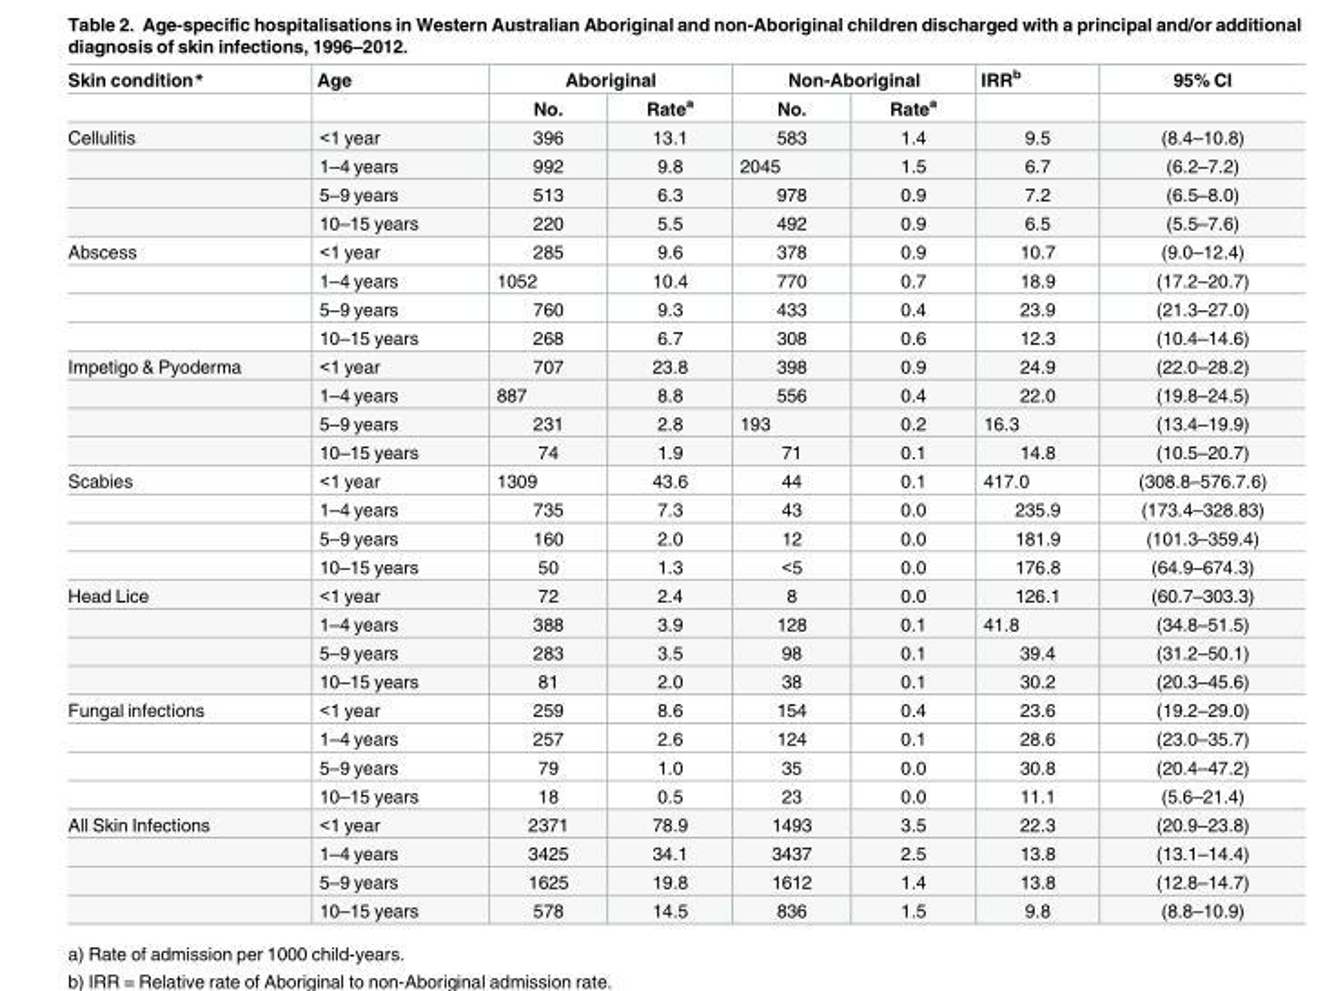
<table><thead><tr><td rowspan="2">Skin condition*</td><td rowspan="2">Age</td><td colspan="2">Aboriginal</td><td colspan="2">Non-Aboriginal</td><td rowspan="2">IRR<sup>b</sup></td><td rowspan="2">95% CI</td></tr><tr><td>No.</td><td>Rate<sup>a</sup></td><td>No.</td><td>Rate<sup>a</sup></td></tr></thead><tbody><tr><td rowspan="4">Cellulitis</td><td>&lt;1 year</td><td>396</td><td>13.1</td><td>583</td><td>1.4</td><td>9.5</td><td>(8.4–10.8)</td></tr><tr><td>1–4 years</td><td>992</td><td>9.8</td><td>2045</td><td>1.5</td><td>6.7</td><td>(6.2–7.2)</td></tr><tr><td>5–9 years</td><td>513</td><td>6.3</td><td>978</td><td>0.9</td><td>7.2</td><td>(6.5–8.0)</td></tr><tr><td>10–15 years</td><td>220</td><td>5.5</td><td>492</td><td>0.9</td><td>6.5</td><td>(5.5–7.6)</td></tr><tr><td rowspan="4">Abscess</td><td>&lt;1 year</td><td>285</td><td>9.6</td><td>378</td><td>0.9</td><td>10.7</td><td>(9.0–12.4)</td></tr><tr><td>1–4 years</td><td>1052</td><td>10.4</td><td>770</td><td>0.7</td><td>18.9</td><td>(17.2–20.7)</td></tr><tr><td>5–9 years</td><td>760</td><td>9.3</td><td>433</td><td>0.4</td><td>23.9</td><td>(21.3–27.0)</td></tr><tr><td>10–15 years</td><td>268</td><td>6.7</td><td>308</td><td>0.6</td><td>12.3</td><td>(10.4–14.6)</td></tr><tr><td rowspan="4">Impetigo &amp; Pyoderma</td><td>&lt;1 year</td><td>707</td><td>23.8</td><td>398</td><td>0.9</td><td>24.9</td><td>(22.0–28.2)</td></tr><tr><td>1–4 years</td><td>887</td><td>8.8</td><td>556</td><td>0.4</td><td>22.0</td><td>(19.8–24.5)</td></tr><tr><td>5–9 years</td><td>231</td><td>2.8</td><td>193</td><td>0.2</td><td>16.3</td><td>(13.4–19.9)</td></tr><tr><td>10–15 years</td><td>74</td><td>1.9</td><td>71</td><td>0.1</td><td>14.8</td><td>(10.5–20.7)</td></tr><tr><td rowspan="4">Scabies</td><td>&lt;1 year</td><td>1309</td><td>43.6</td><td>44</td><td>0.1</td><td>417.0</td><td>(308.8–576.7.6)</td></tr><tr><td>1–4 years</td><td>735</td><td>7.3</td><td>43</td><td>0.0</td><td>235.9</td><td>(173.4–328.83)</td></tr><tr><td>5–9 years</td><td>160</td><td>2.0</td><td>12</td><td>0.0</td><td>181.9</td><td>(101.3–359.4)</td></tr><tr><td>10–15 years</td><td>50</td><td>1.3</td><td>&lt;5</td><td>0.0</td><td>176.8</td><td>(64.9–674.3)</td></tr><tr><td rowspan="4">Head Lice</td><td>&lt;1 year</td><td>72</td><td>2.4</td><td>8</td><td>0.0</td><td>126.1</td><td>(60.7–303.3)</td></tr><tr><td>1–4 years</td><td>388</td><td>3.9</td><td>128</td><td>0.1</td><td>41.8</td><td>(34.8–51.5)</td></tr><tr><td>5–9 years</td><td>283</td><td>3.5</td><td>98</td><td>0.1</td><td>39.4</td><td>(31.2–50.1)</td></tr><tr><td>10–15 years</td><td>81</td><td>2.0</td><td>38</td><td>0.1</td><td>30.2</td><td>(20.3–45.6)</td></tr><tr><td rowspan="4">Fungal infections</td><td>&lt;1 year</td><td>259</td><td>8.6</td><td>154</td><td>0.4</td><td>23.6</td><td>(19.2–29.0)</td></tr><tr><td>1–4 years</td><td>257</td><td>2.6</td><td>124</td><td>0.1</td><td>28.6</td><td>(23.0–35.7)</td></tr><tr><td>5–9 years</td><td>79</td><td>1.0</td><td>35</td><td>0.0</td><td>30.8</td><td>(20.4–47.2)</td></tr><tr><td>10–15 years</td><td>18</td><td>0.5</td><td>23</td><td>0.0</td><td>11.1</td><td>(5.6–21.4)</td></tr><tr><td rowspan="4">All Skin Infections</td><td>&lt;1 year</td><td>2371</td><td>78.9</td><td>1493</td><td>3.5</td><td>22.3</td><td>(20.9–23.8)</td></tr><tr><td>1–4 years</td><td>3425</td><td>34.1</td><td>3437</td><td>2.5</td><td>13.8</td><td>(13.1–14.4)</td></tr><tr><td>5–9 years</td><td>1625</td><td>19.8</td><td>1612</td><td>1.4</td><td>13.8</td><td>(12.8–14.7)</td></tr><tr><td>10–15 years</td><td>578</td><td>14.5</td><td>836</td><td>1.5</td><td>9.8</td><td>(8.8–10.9)</td></tr></tbody></table>